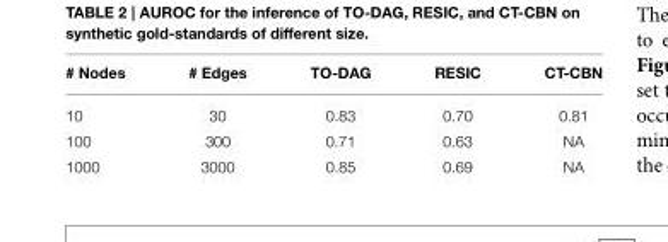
<table><thead><tr><td># Nodes</td><td># Edges</td><td>TO-DAG</td><td>RESIC</td><td>CT-CBN</td></tr></thead><tbody><tr><td>10</td><td>30</td><td>0.83</td><td>0.70</td><td>0.81</td></tr><tr><td>100</td><td>300</td><td>0.71</td><td>0.63</td><td>NA</td></tr><tr><td>1000</td><td>3000</td><td>0.85</td><td>0.69</td><td>NA</td></tr></tbody></table>